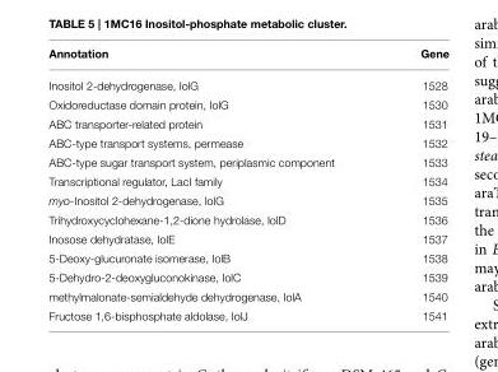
<table><thead><tr><td>Annotation</td><td>Gene</td></tr></thead><tbody><tr><td>Inositol 2-dehydrogenase, IolG</td><td>1528</td></tr><tr><td>Oxidoreductase domain protein, IolG</td><td>1530</td></tr><tr><td>ABC transporter-related protein</td><td>1531</td></tr><tr><td>ABC-type transport systems, permease</td><td>1532</td></tr><tr><td>ABC-type sugar transport system, periplasmic component</td><td>1533</td></tr><tr><td>Transcriptional regulator, LacI family</td><td>1534</td></tr><tr><td>myo-Inositol 2-dehydrogenase, IolG</td><td>1535</td></tr><tr><td>Trihydroxycyclohexane-1,2-dione hydrolase, IolD</td><td>1536</td></tr><tr><td>Inosose dehydratase, IolE</td><td>1537</td></tr><tr><td>5-Deoxy-glucuronate isomerase, IolB</td><td>1538</td></tr><tr><td>5-Dehydro-2-deoxygluconokinase, IolC</td><td>1539</td></tr><tr><td>methylmalonate-semialdehyde dehydrogenase, IolA</td><td>1540</td></tr><tr><td>Fructose 1,6-bisphosphate aldolase, IolJ</td><td>1541</td></tr></tbody></table>